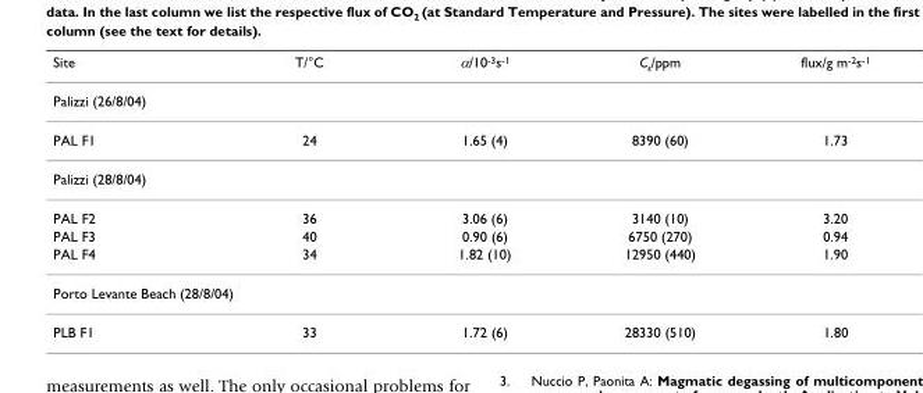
<table><thead><tr><td>Site</td><td>T/°C</td><td>α/10<sup>-3</sup>s<sup>-1</sup></td><td>C<sub>s</sub>/ppm</td><td>flux/g m<sup>-2</sup>s<sup>-1</sup></td></tr></thead><tbody><tr><td colspan="5">Palizzi (26/8/04)</td></tr><tr><td>PAL F1</td><td>24</td><td>1.65 (4)</td><td>8390 (60)</td><td>1.73</td></tr><tr><td colspan="5">Palizzi (28/8/04)</td></tr><tr><td>PAL F2</td><td>36</td><td>3.06 (6)</td><td>3140 (10)</td><td>3.20</td></tr><tr><td>PAL F3</td><td>40</td><td>0.90 (6)</td><td>6750 (270)</td><td>0.94</td></tr><tr><td>PAL F4</td><td>34</td><td>1.82 (10)</td><td>12950 (440)</td><td>1.90</td></tr><tr><td colspan="5">Porto Levante Beach (28/8/04)</td></tr><tr><td>PLB F1</td><td>33</td><td>1.72 (6)</td><td>28330 (510)</td><td>1.80</td></tr></tbody></table>